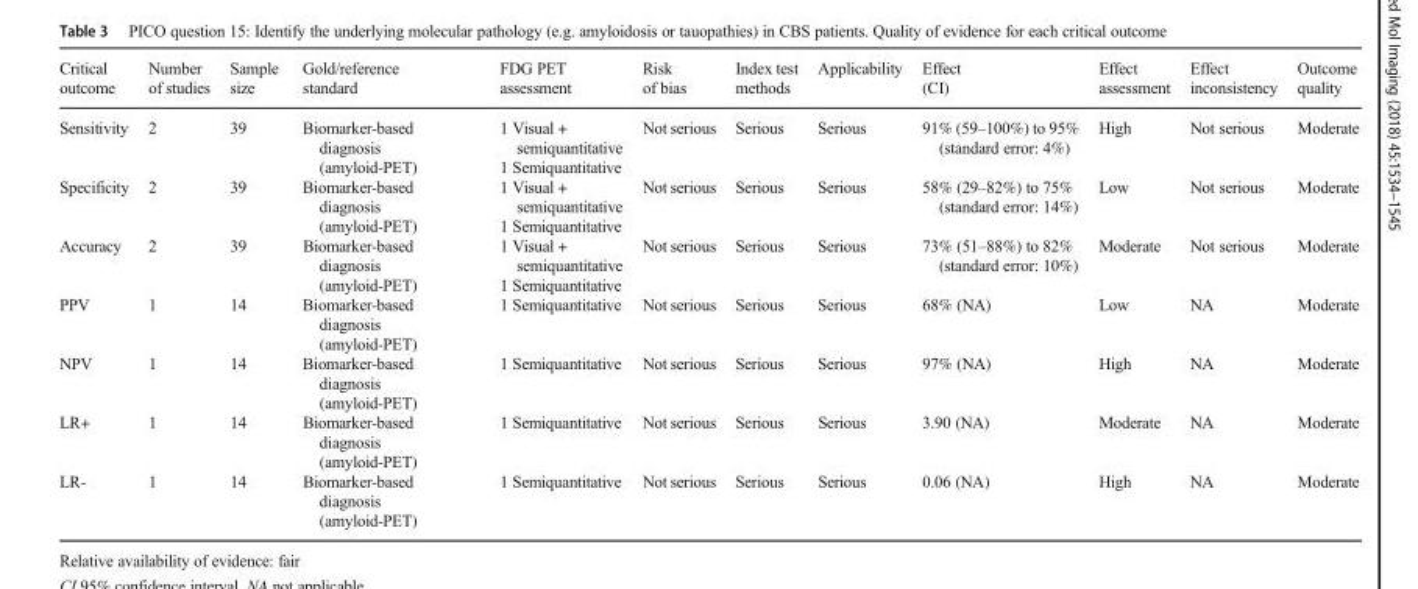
<table><thead><tr><td>Critical outcome</td><td>Number of studies</td><td>Sample size</td><td>Gold/reference standard</td><td>FDG PET assessment</td><td>Risk of bias</td><td>Index test methods</td><td>Applicability</td><td>Effect (CI)</td><td>Effect assessment</td><td>Effect inconsistency</td><td>Outcome quality</td></tr></thead><tbody><tr><td>Sensitivity</td><td>2</td><td>39</td><td>Biomarker-based diagnosis (amyloid-PET)</td><td>1 Visual + semiquantitative 1 Semiquantitative</td><td>Not serious</td><td>Serious</td><td>Serious</td><td>91% (59–100%) to 95% (standard error: 4%)</td><td>High</td><td>Not serious</td><td>Moderate</td></tr><tr><td>Specificity</td><td>2</td><td>39</td><td>Biomarker-based diagnosis (amyloid-PET)</td><td>1 Visual + semiquantitative 1 Semiquantitative</td><td>Not serious</td><td>Serious</td><td>Serious</td><td>58% (29–82%) to 75% (standard error: 14%)</td><td>Low</td><td>Not serious</td><td>Moderate</td></tr><tr><td>Accuracy</td><td>2</td><td>39</td><td>Biomarker-based diagnosis (amyloid-PET)</td><td>1 Visual + semiquantitative 1 Semiquantitative</td><td>Not serious</td><td>Serious</td><td>Serious</td><td>73% (51–88%) to 82% (standard error: 10%)</td><td>Moderate</td><td>Not serious</td><td>Moderate</td></tr><tr><td>PPV</td><td>1</td><td>14</td><td>Biomarker-based diagnosis (amyloid-PET)</td><td>1 Semiquantitative</td><td>Not serious</td><td>Serious</td><td>Serious</td><td>68% (NA)</td><td>Low</td><td>NA</td><td>Moderate</td></tr><tr><td>NPV</td><td>1</td><td>14</td><td>Biomarker-based diagnosis (amyloid-PET)</td><td>1 Semiquantitative</td><td>Not serious</td><td>Serious</td><td>Serious</td><td>97% (NA)</td><td>High</td><td>NA</td><td>Moderate</td></tr><tr><td>LR+</td><td>1</td><td>14</td><td>Biomarker-based diagnosis (amyloid-PET)</td><td>1 Semiquantitative</td><td>Not serious</td><td>Serious</td><td>Serious</td><td>3.90 (NA)</td><td>Moderate</td><td>NA</td><td>Moderate</td></tr><tr><td>LR-</td><td>1</td><td>14</td><td>Biomarker-based diagnosis (amyloid-PET)</td><td>1 Semiquantitative</td><td>Not serious</td><td>Serious</td><td>Serious</td><td>0.06 (NA)</td><td>High</td><td>NA</td><td>Moderate</td></tr></tbody></table>